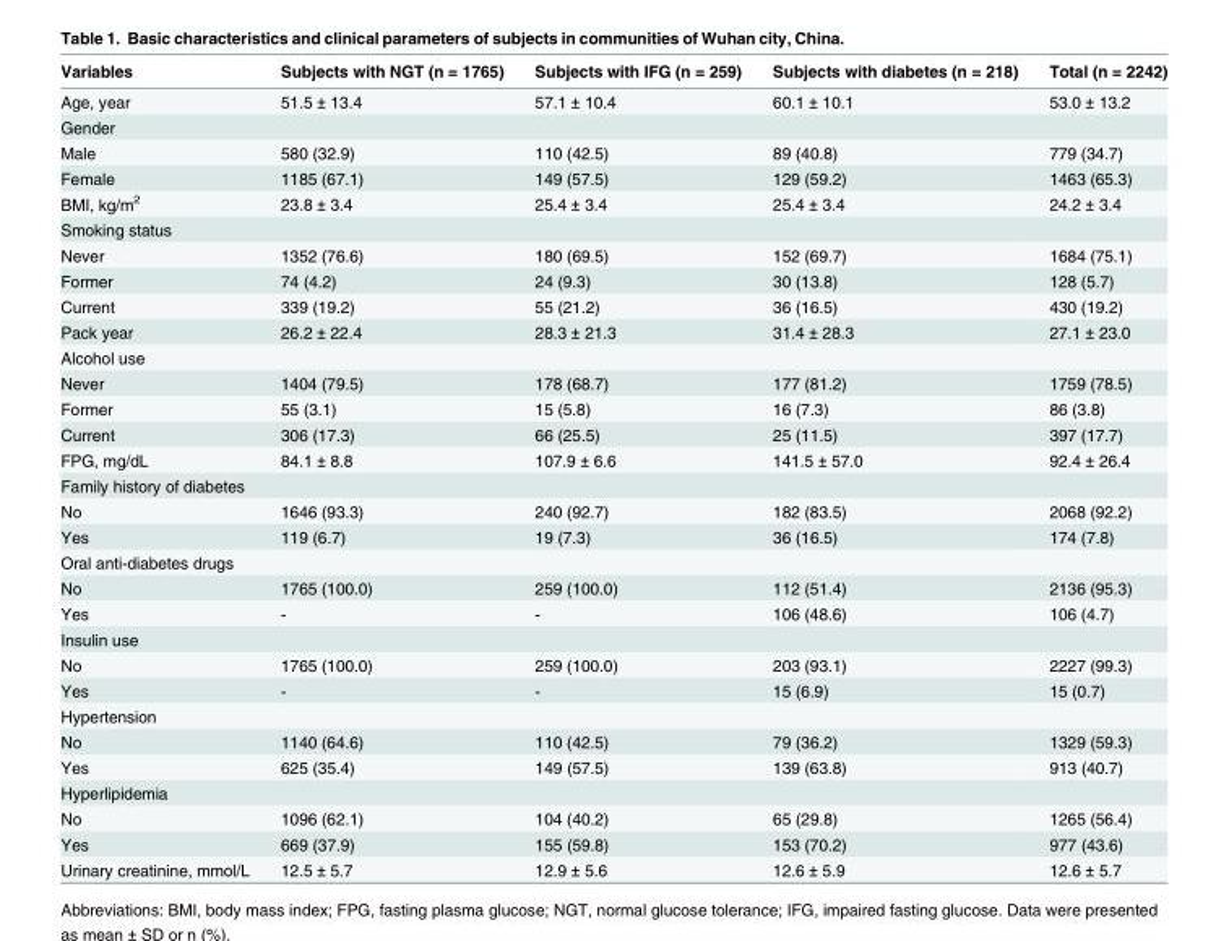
<table><thead><tr><td>Variables</td><td>Subjects with NGT (n = 1765)</td><td>Subjects with IFG (n = 259)</td><td>Subjects with diabetes (n = 218)</td><td>Total (n = 2242)</td></tr></thead><tbody><tr><td>Age, year</td><td>51.5 ± 13.4</td><td>57.1 ± 10.4</td><td>60.1 ± 10.1</td><td>53.0 ± 13.2</td></tr><tr><td colspan="5">Gender</td></tr><tr><td>Male</td><td>580 (32.9)</td><td>110 (42.5)</td><td>89 (40.8)</td><td>779 (34.7)</td></tr><tr><td>Female</td><td>1185 (67.1)</td><td>149 (57.5)</td><td>129 (59.2)</td><td>1463 (65.3)</td></tr><tr><td>BMI, kg/m<sup>2</sup></td><td>23.8 ± 3.4</td><td>25.4 ± 3.4</td><td>25.4 ± 3.4</td><td>24.2 ± 3.4</td></tr><tr><td colspan="5">Smoking status</td></tr><tr><td>Never</td><td>1352 (76.6)</td><td>180 (69.5)</td><td>152 (69.7)</td><td>1684 (75.1)</td></tr><tr><td>Former</td><td>74 (4.2)</td><td>24 (9.3)</td><td>30 (13.8)</td><td>128 (5.7)</td></tr><tr><td>Current</td><td>339 (19.2)</td><td>55 (21.2)</td><td>36 (16.5)</td><td>430 (19.2)</td></tr><tr><td>Pack year</td><td>26.2 ± 22.4</td><td>28.3 ± 21.3</td><td>31.4 ± 28.3</td><td>27.1 ± 23.0</td></tr><tr><td colspan="5">Alcohol use</td></tr><tr><td>Never</td><td>1404 (79.5)</td><td>178 (68.7)</td><td>177 (81.2)</td><td>1759 (78.5)</td></tr><tr><td>Former</td><td>55 (3.1)</td><td>15 (5.8)</td><td>16 (7.3)</td><td>86 (3.8)</td></tr><tr><td>Current</td><td>306 (17.3)</td><td>66 (25.5)</td><td>25 (11.5)</td><td>397 (17.7)</td></tr><tr><td>FPG, mg/dL</td><td>84.1 ± 8.8</td><td>107.9 ± 6.6</td><td>141.5 ± 57.0</td><td>92.4 ± 26.4</td></tr><tr><td colspan="5">Family history of diabetes</td></tr><tr><td>No</td><td>1646 (93.3)</td><td>240 (92.7)</td><td>182 (83.5)</td><td>2068 (92.2)</td></tr><tr><td>Yes</td><td>119 (6.7)</td><td>19 (7.3)</td><td>36 (16.5)</td><td>174 (7.8)</td></tr><tr><td colspan="5">Oral anti-diabetes drugs</td></tr><tr><td>No</td><td>1765 (100.0)</td><td>259 (100.0)</td><td>112 (51.4)</td><td>2136 (95.3)</td></tr><tr><td>Yes</td><td>-</td><td>-</td><td>106 (48.6)</td><td>106 (4.7)</td></tr><tr><td colspan="5">Insulin use</td></tr><tr><td>No</td><td>1765 (100.0)</td><td>259 (100.0)</td><td>203 (93.1)</td><td>2227 (99.3)</td></tr><tr><td>Yes</td><td>-</td><td>-</td><td>15 (6.9)</td><td>15 (0.7)</td></tr><tr><td colspan="5">Hypertension</td></tr><tr><td>No</td><td>1140 (64.6)</td><td>110 (42.5)</td><td>79 (36.2)</td><td>1329 (59.3)</td></tr><tr><td>Yes</td><td>625 (35.4)</td><td>149 (57.5)</td><td>139 (63.8)</td><td>913 (40.7)</td></tr><tr><td colspan="5">Hyperlipidemia</td></tr><tr><td>No</td><td>1096 (62.1)</td><td>104 (40.2)</td><td>65 (29.8)</td><td>1265 (56.4)</td></tr><tr><td>Yes</td><td>669 (37.9)</td><td>155 (59.8)</td><td>153 (70.2)</td><td>977 (43.6)</td></tr><tr><td>Urinary creatinine, mmol/L</td><td>12.5 ± 5.7</td><td>12.9 ± 5.6</td><td>12.6 ± 5.9</td><td>12.6 ± 5.7</td></tr></tbody></table>